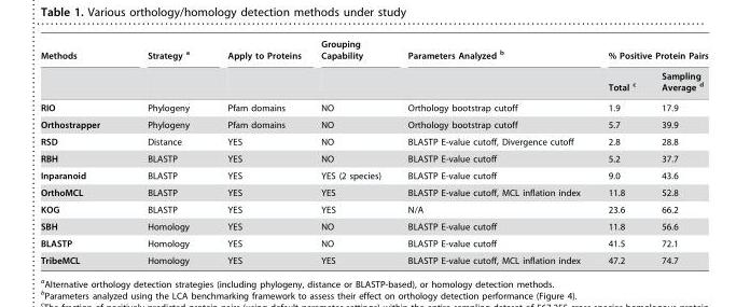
<table><thead><tr><td rowspan="2">Methods</td><td rowspan="2">Strategy a</td><td rowspan="2">Apply to Proteins</td><td rowspan="2">Grouping Capability</td><td rowspan="2">Parameters Analyzed b</td><td colspan="2">% Positive Protein Pairs</td></tr><tr><td>Total c</td><td>Sampling Average d</td></tr></thead><tbody><tr><td>RIO</td><td>Phylogeny</td><td>Pfam domains</td><td>NO</td><td>Orthology bootstrap cutoff</td><td>1.9</td><td>17.9</td></tr><tr><td>Orthostrapper</td><td>Phylogeny</td><td>Pfam domains</td><td>NO</td><td>Orthology bootstrap cutoff</td><td>5.7</td><td>39.9</td></tr><tr><td>RSD</td><td>Distance</td><td>YES</td><td>NO</td><td>BLASTP E-value cutoff, Divergence cutoff</td><td>2.8</td><td>28.8</td></tr><tr><td>RBH</td><td>BLASTP</td><td>YES</td><td>NO</td><td>BLASTP E-value cutoff</td><td>5.2</td><td>37.7</td></tr><tr><td>Inparanoid</td><td>BLASTP</td><td>YES</td><td>YES (2 species)</td><td>BLASTP E-value cutoff</td><td>9.0</td><td>43.6</td></tr><tr><td>OrthoMCL</td><td>BLASTP</td><td>YES</td><td>YES</td><td>BLASTP E-value cutoff, MCL inflation index</td><td>11.8</td><td>52.8</td></tr><tr><td>KOG</td><td>BLASTP</td><td>YES</td><td>YES</td><td>N/A</td><td>23.6</td><td>66.2</td></tr><tr><td>SBH</td><td>Homology</td><td>YES</td><td>NO</td><td>BLASTP E-value cutoff</td><td>11.8</td><td>56.6</td></tr><tr><td>BLASTP</td><td>Homology</td><td>YES</td><td>NO</td><td>BLASTP E-value cutoff</td><td>41.5</td><td>72.1</td></tr><tr><td>TribeMCL</td><td>Homology</td><td>YES</td><td>YES</td><td>BLASTP E-value cutoff, MCL inflation index</td><td>47.2</td><td>74.7</td></tr></tbody></table>